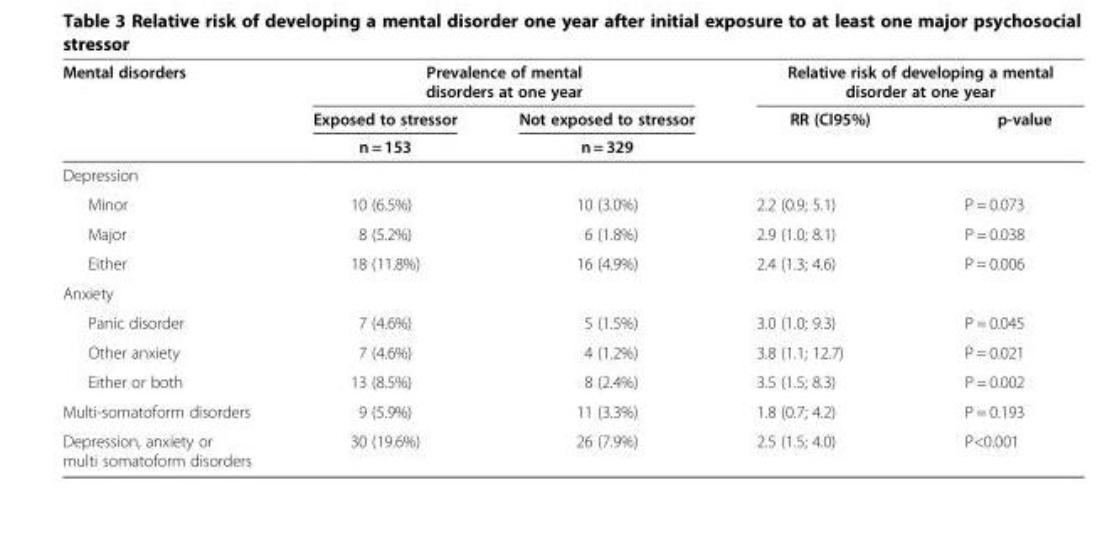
<table><thead><tr><td rowspan="3">Mental disorders</td><td colspan="2">Prevalence of mental disorders at one year</td><td colspan="2">Relative risk of developing a mental disorder at one year</td></tr><tr><td rowspan="2">Exposed to stressor n = 153</td><td rowspan="2">Not exposed to stressor n = 329</td><td rowspan="2">RR (CI95%)</td><td rowspan="2">p-value</td></tr><tr></tr></thead><tbody><tr><td colspan="5">Depression</td></tr><tr><td>Minor</td><td>10 (6.5%)</td><td>10 (3.0%)</td><td>2.2 (0.9; 5.1)</td><td>P = 0.073</td></tr><tr><td>Major</td><td>8 (5.2%)</td><td>6 (1.8%)</td><td>2.9 (1.0; 8.1)</td><td>P = 0.038</td></tr><tr><td>Either</td><td>18 (11.8%)</td><td>16 (4.9%)</td><td>2.4 (1.3; 4.6)</td><td>P = 0.006</td></tr><tr><td colspan="5">Anxiety</td></tr><tr><td>Panic disorder</td><td>7 (4.6%)</td><td>5 (1.5%)</td><td>3.0 (1.0; 9.3)</td><td>P = 0.045</td></tr><tr><td>Other anxiety</td><td>7 (4.6%)</td><td>4 (1.2%)</td><td>3.8 (1.1; 12.7)</td><td>P = 0.021</td></tr><tr><td>Either or both</td><td>13 (8.5%)</td><td>8 (2.4%)</td><td>3.5 (1.5; 8.3)</td><td>P = 0.002</td></tr><tr><td>Multi-somatoform disorders</td><td>9 (5.9%)</td><td>11 (3.3%)</td><td>1.8 (0.7; 4.2)</td><td>P = 0.193</td></tr><tr><td>Depression, anxiety or multi somatoform disorders</td><td>30 (19.6%)</td><td>26 (7.9%)</td><td>2.5 (1.5; 4.0)</td><td>P&lt;0.001</td></tr></tbody></table>